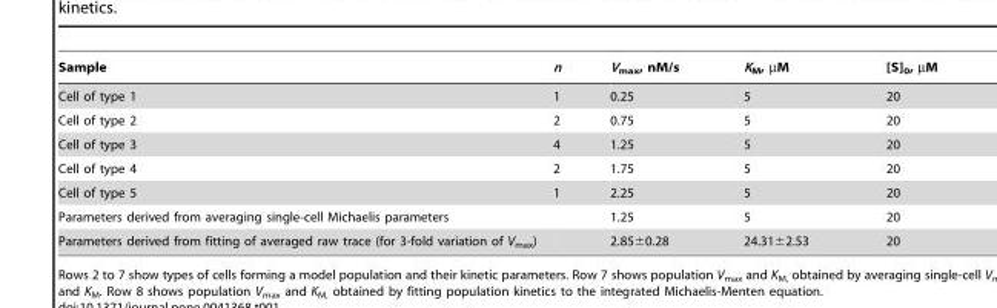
<table><thead><tr><td>Sample</td><td>n</td><td>V<sub>max</sub>, nM/s</td><td>K<sub>M</sub>, µM</td><td>[S]<sub>0</sub>, µM</td></tr></thead><tbody><tr><td>Cell of type 1</td><td>1</td><td>0.25</td><td>5</td><td>20</td></tr><tr><td>Cell of type 2</td><td>2</td><td>0.75</td><td>5</td><td>20</td></tr><tr><td>Cell of type 3</td><td>4</td><td>1.25</td><td>5</td><td>20</td></tr><tr><td>Cell of type 4</td><td>2</td><td>1.75</td><td>5</td><td>20</td></tr><tr><td>Cell of type 5</td><td>1</td><td>2.25</td><td>5</td><td>20</td></tr><tr><td>Parameters derived from averaging single-cell Michaelis parameters</td><td></td><td>1.25</td><td>5</td><td>20</td></tr><tr><td>Parameters derived from fitting of averaged raw trace (for 3-fold variation of V<sub>max</sub>)</td><td></td><td>2.85±0.28</td><td>24.31±2.53</td><td>20</td></tr></tbody></table>